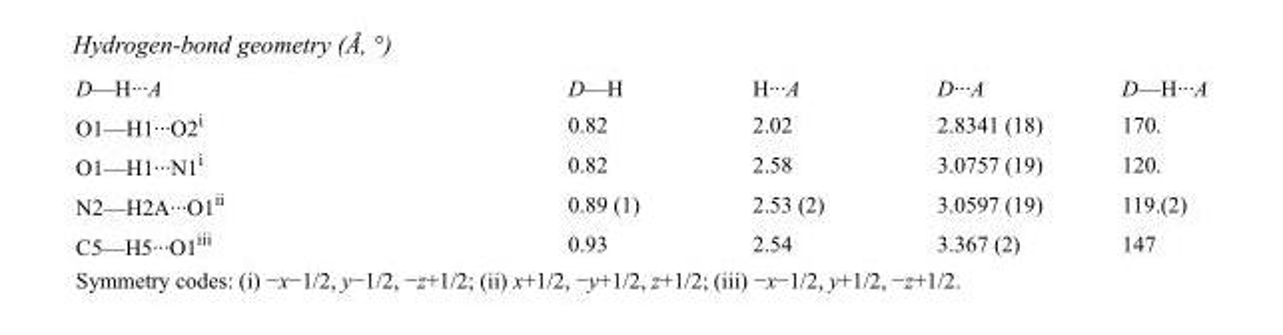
<table><tbody><tr><td>D—H···A</td><td>D—H</td><td>H···A</td><td>D···A</td><td>D—H···A</td></tr><tr><td>O1—H1···O2<sup>i</sup></td><td>0.82</td><td>2.02</td><td>2.8341 (18)</td><td>170.</td></tr><tr><td>O1—H1···N1<sup>i</sup></td><td>0.82</td><td>2.58</td><td>3.0757 (19)</td><td>120.</td></tr><tr><td>N2—H2A···O1<sup>ii</sup></td><td>0.89 (1)</td><td>2.53 (2)</td><td>3.0597 (19)</td><td>119.(2)</td></tr><tr><td>C5—H5···O1<sup>iii</sup></td><td>0.93</td><td>2.54</td><td>3.367 (2)</td><td>147</td></tr></tbody></table>